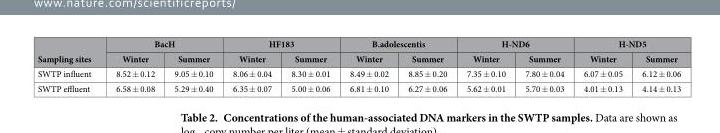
<table><thead><tr><td rowspan="2">Sampling sites</td><td colspan="2">BacH</td><td colspan="2">HF183</td><td colspan="2">B.adolescentis</td><td colspan="2">H-ND6</td><td colspan="2">H-ND5</td></tr><tr><td>Winter</td><td>Summer</td><td>Winter</td><td>Summer</td><td>Winter</td><td>Summer</td><td>Winter</td><td>Summer</td><td>Winter</td><td>Summer</td></tr></thead><tbody><tr><td>SWTP influent</td><td>8.52 ± 0.12</td><td>9.05 ± 0.10</td><td>8.06 ± 0.04</td><td>8.30 ± 0.01</td><td>8.49 ± 0.02</td><td>8.85 ± 0.20</td><td>7.35 ± 0.10</td><td>7.80 ± 0.04</td><td>6.07 ± 0.05</td><td>6.12 ± 0.06</td></tr><tr><td>SWTP effluent</td><td>6.58 ± 0.08</td><td>5.29 ± 0.40</td><td>6.35 ± 0.07</td><td>5.00 ± 0.06</td><td>6.81 ± 0.10</td><td>6.27 ± 0.06</td><td>5.62 ± 0.01</td><td>5.70 ± 0.03</td><td>4.01 ± 0.13</td><td>4.14 ± 0.13</td></tr></tbody></table>